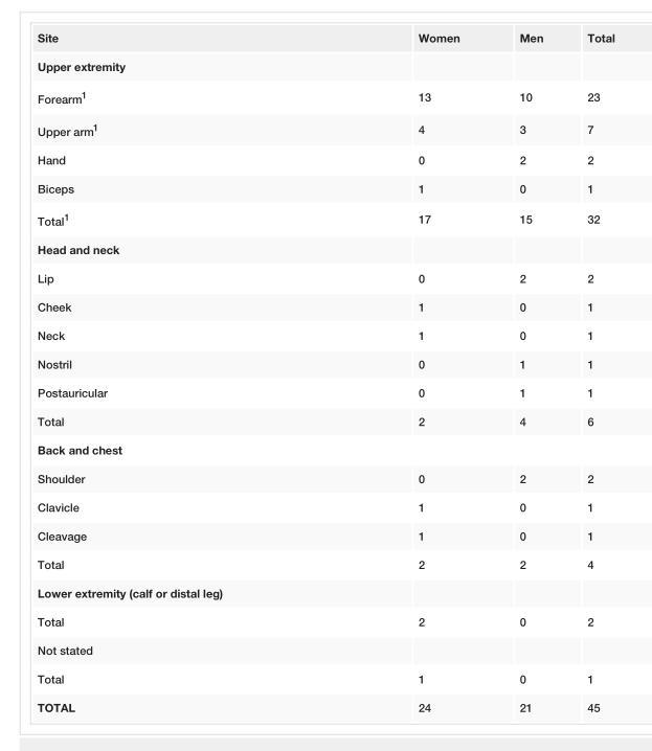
<table><tbody><tr><td>Site</td><td>Women</td><td>Men</td><td>Total</td></tr><tr><td colspan="4">Upper extremity</td></tr><tr><td>Forearm<sup>1</sup></td><td>13</td><td>10</td><td>23</td></tr><tr><td>Upper arm<sup>1</sup></td><td>4</td><td>3</td><td>7</td></tr><tr><td>Hand</td><td>0</td><td>2</td><td>2</td></tr><tr><td>Biceps</td><td>1</td><td>0</td><td>1</td></tr><tr><td>Total<sup>1</sup></td><td>17</td><td>15</td><td>32</td></tr><tr><td colspan="4">Head and neck</td></tr><tr><td>Lip</td><td>0</td><td>2</td><td>2</td></tr><tr><td>Cheek</td><td>1</td><td>0</td><td>1</td></tr><tr><td>Neck</td><td>1</td><td>0</td><td>1</td></tr><tr><td>Nostril</td><td>0</td><td>1</td><td>1</td></tr><tr><td>Postauricular</td><td>0</td><td>1</td><td>1</td></tr><tr><td>Total</td><td>2</td><td>4</td><td>6</td></tr><tr><td colspan="4">Back and chest</td></tr><tr><td>Shoulder</td><td>0</td><td>2</td><td>2</td></tr><tr><td>Clavicle</td><td>1</td><td>0</td><td>1</td></tr><tr><td>Cleavage</td><td>1</td><td>0</td><td>1</td></tr><tr><td>Total</td><td>2</td><td>2</td><td>4</td></tr><tr><td colspan="4">Lower extremity (calf or distal leg)</td></tr><tr><td>Total</td><td>2</td><td>0</td><td>2</td></tr><tr><td colspan="4">Not stated</td></tr><tr><td>Total</td><td>1</td><td>0</td><td>1</td></tr><tr><td>TOTAL</td><td>24</td><td>21</td><td>45</td></tr></tbody></table>